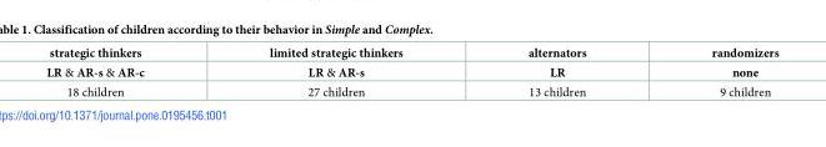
<table><thead><tr><td>strategic thinkers</td><td>limited strategic thinkers</td><td>alternators</td><td>randomizers</td></tr></thead><tbody><tr><td>LR &amp; AR-s &amp; AR-c</td><td>LR &amp; AR-s</td><td>LR</td><td>none</td></tr><tr><td>18 children</td><td>27 children</td><td>13 children</td><td>9 children</td></tr></tbody></table>